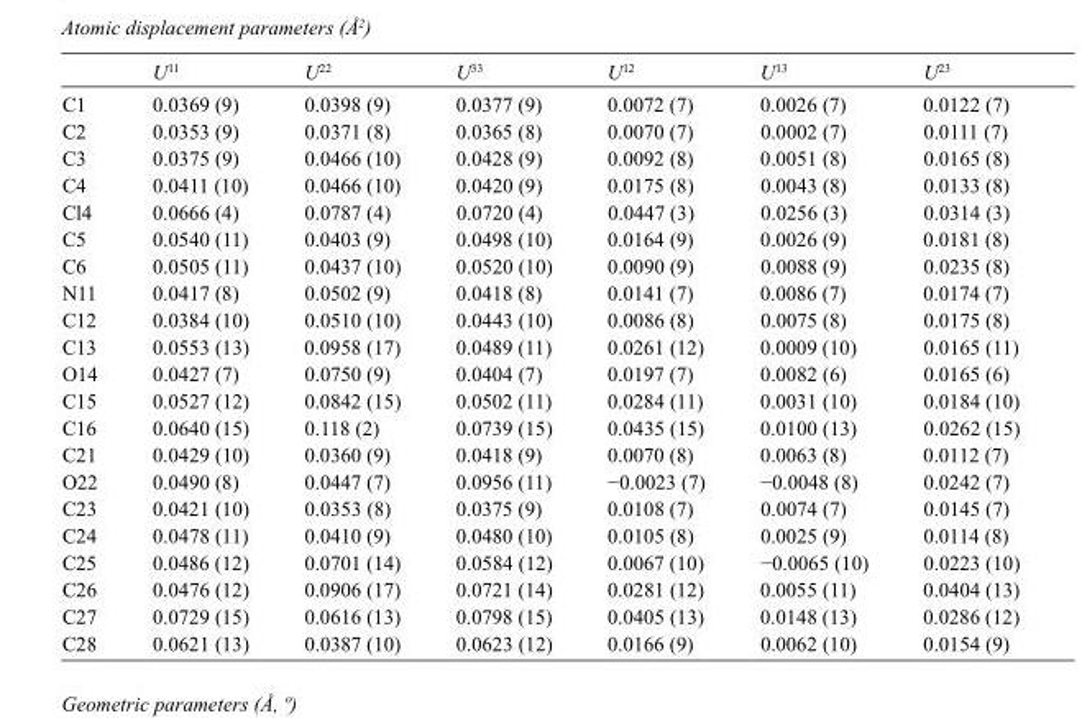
<table><thead><tr><td></td><td>U<sup>11</sup></td><td>U<sup>22</sup></td><td>U<sup>33</sup></td><td>U<sup>12</sup></td><td>U<sup>13</sup></td><td>U<sup>23</sup></td></tr></thead><tbody><tr><td>C1</td><td>0.0369 (9)</td><td>0.0398 (9)</td><td>0.0377 (9)</td><td>0.0072 (7)</td><td>0.0026 (7)</td><td>0.0122 (7)</td></tr><tr><td>C2</td><td>0.0353 (9)</td><td>0.0371 (8)</td><td>0.0365 (8)</td><td>0.0070 (7)</td><td>0.0002 (7)</td><td>0.0111 (7)</td></tr><tr><td>C3</td><td>0.0375 (9)</td><td>0.0466 (10)</td><td>0.0428 (9)</td><td>0.0092 (8)</td><td>0.0051 (8)</td><td>0.0165 (8)</td></tr><tr><td>C4</td><td>0.0411 (10)</td><td>0.0466 (10)</td><td>0.0420 (9)</td><td>0.0175 (8)</td><td>0.0043 (8)</td><td>0.0133 (8)</td></tr><tr><td>Cl4</td><td>0.0666 (4)</td><td>0.0787 (4)</td><td>0.0720 (4)</td><td>0.0447 (3)</td><td>0.0256 (3)</td><td>0.0314 (3)</td></tr><tr><td>C5</td><td>0.0540 (11)</td><td>0.0403 (9)</td><td>0.0498 (10)</td><td>0.0164 (9)</td><td>0.0026 (9)</td><td>0.0181 (8)</td></tr><tr><td>C6</td><td>0.0505 (11)</td><td>0.0437 (10)</td><td>0.0520 (10)</td><td>0.0090 (9)</td><td>0.0088 (9)</td><td>0.0235 (8)</td></tr><tr><td>N11</td><td>0.0417 (8)</td><td>0.0502 (9)</td><td>0.0418 (8)</td><td>0.0141 (7)</td><td>0.0086 (7)</td><td>0.0174 (7)</td></tr><tr><td>C12</td><td>0.0384 (10)</td><td>0.0510 (10)</td><td>0.0443 (10)</td><td>0.0086 (8)</td><td>0.0075 (8)</td><td>0.0175 (8)</td></tr><tr><td>C13</td><td>0.0553 (13)</td><td>0.0958 (17)</td><td>0.0489 (11)</td><td>0.0261 (12)</td><td>0.0009 (10)</td><td>0.0165 (11)</td></tr><tr><td>O14</td><td>0.0427 (7)</td><td>0.0750 (9)</td><td>0.0404 (7)</td><td>0.0197 (7)</td><td>0.0082 (6)</td><td>0.0165 (6)</td></tr><tr><td>C15</td><td>0.0527 (12)</td><td>0.0842 (15)</td><td>0.0502 (11)</td><td>0.0284 (11)</td><td>0.0031 (10)</td><td>0.0184 (10)</td></tr><tr><td>C16</td><td>0.0640 (15)</td><td>0.118 (2)</td><td>0.0739 (15)</td><td>0.0435 (15)</td><td>0.0100 (13)</td><td>0.0262 (15)</td></tr><tr><td>C21</td><td>0.0429 (10)</td><td>0.0360 (9)</td><td>0.0418 (9)</td><td>0.0070 (8)</td><td>0.0063 (8)</td><td>0.0112 (7)</td></tr><tr><td>O22</td><td>0.0490 (8)</td><td>0.0447 (7)</td><td>0.0956 (11)</td><td>−0.0023 (7)</td><td>−0.0048 (8)</td><td>0.0242 (7)</td></tr><tr><td>C23</td><td>0.0421 (10)</td><td>0.0353 (8)</td><td>0.0375 (9)</td><td>0.0108 (7)</td><td>0.0074 (7)</td><td>0.0145 (7)</td></tr><tr><td>C24</td><td>0.0478 (11)</td><td>0.0410 (9)</td><td>0.0480 (10)</td><td>0.0105 (8)</td><td>0.0025 (9)</td><td>0.0114 (8)</td></tr><tr><td>C25</td><td>0.0486 (12)</td><td>0.0701 (14)</td><td>0.0584 (12)</td><td>0.0067 (10)</td><td>−0.0065 (10)</td><td>0.0223 (10)</td></tr><tr><td>C26</td><td>0.0476 (12)</td><td>0.0906 (17)</td><td>0.0721 (14)</td><td>0.0281 (12)</td><td>0.0055 (11)</td><td>0.0404 (13)</td></tr><tr><td>C27</td><td>0.0729 (15)</td><td>0.0616 (13)</td><td>0.0798 (15)</td><td>0.0405 (13)</td><td>0.0148 (13)</td><td>0.0286 (12)</td></tr><tr><td>C28</td><td>0.0621 (13)</td><td>0.0387 (10)</td><td>0.0623 (12)</td><td>0.0166 (9)</td><td>0.0062 (10)</td><td>0.0154 (9)</td></tr></tbody></table>